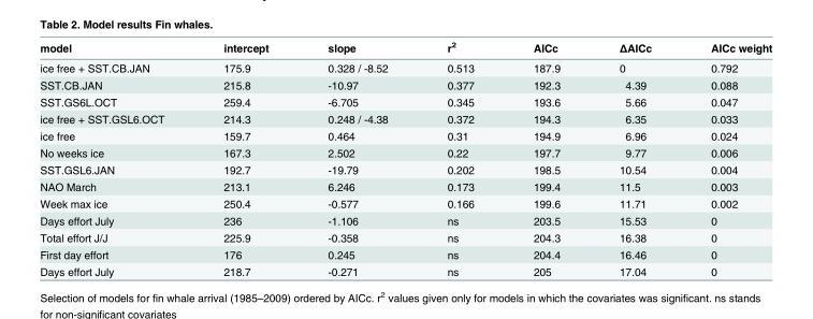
<table><thead><tr><td>model</td><td>intercept</td><td>slope</td><td>r<sup>2</sup></td><td>AICc</td><td>ΔAICc</td><td>AICc weight</td></tr></thead><tbody><tr><td>ice free + SST.CB.JAN</td><td>175.9</td><td>0.328 / -8.52</td><td>0.513</td><td>187.9</td><td>0</td><td>0.792</td></tr><tr><td>SST.CB.JAN</td><td>215.8</td><td>-10.97</td><td>0.377</td><td>192.3</td><td>4.39</td><td>0.088</td></tr><tr><td>SST.GS6L.OCT</td><td>259.4</td><td>-6.705</td><td>0.345</td><td>193.6</td><td>5.66</td><td>0.047</td></tr><tr><td>ice free + SST.GSL6.OCT</td><td>214.3</td><td>0.248 / -4.38</td><td>0.372</td><td>194.3</td><td>6.35</td><td>0.033</td></tr><tr><td>ice free</td><td>159.7</td><td>0.464</td><td>0.31</td><td>194.9</td><td>6.96</td><td>0.024</td></tr><tr><td>No weeks ice</td><td>167.3</td><td>2.502</td><td>0.22</td><td>197.7</td><td>9.77</td><td>0.006</td></tr><tr><td>SST.GSL6.JAN</td><td>192.7</td><td>-19.79</td><td>0.202</td><td>198.5</td><td>10.54</td><td>0.004</td></tr><tr><td>NAO March</td><td>213.1</td><td>6.246</td><td>0.173</td><td>199.4</td><td>11.5</td><td>0.003</td></tr><tr><td>Week max ice</td><td>250.4</td><td>-0.577</td><td>0.166</td><td>199.6</td><td>11.71</td><td>0.002</td></tr><tr><td>Days effort July</td><td>236</td><td>-1.106</td><td>ns</td><td>203.5</td><td>15.53</td><td>0</td></tr><tr><td>Total effort J/J</td><td>225.9</td><td>-0.358</td><td>ns</td><td>204.3</td><td>16.38</td><td>0</td></tr><tr><td>First day effort</td><td>176</td><td>0.245</td><td>ns</td><td>204.4</td><td>16.46</td><td>0</td></tr><tr><td>Days effort July</td><td>218.7</td><td>-0.271</td><td>ns</td><td>205</td><td>17.04</td><td>0</td></tr></tbody></table>